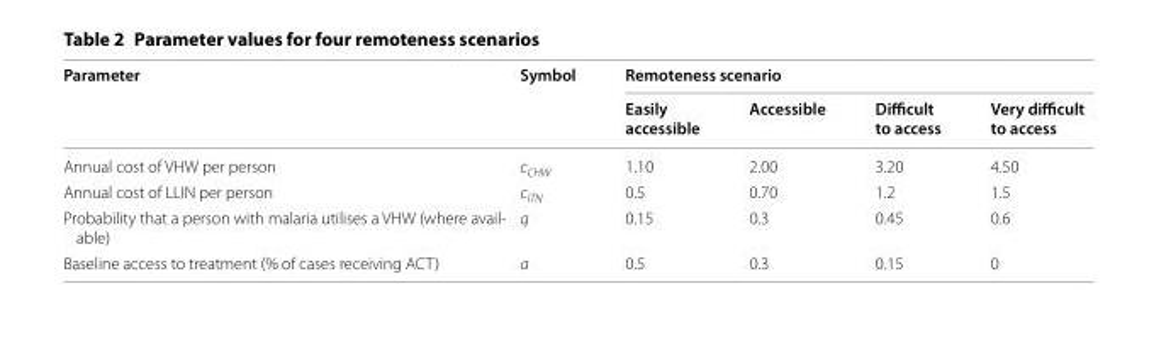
<table><thead><tr><td rowspan="2">Parameter</td><td rowspan="2">Symbol</td><td colspan="4">Remoteness scenario</td></tr><tr><td>Easily accessible</td><td>Accessible</td><td>Difficult to access</td><td>Very difficult to access</td></tr></thead><tbody><tr><td>Annual cost of VHW per person</td><td>c<sub>CHW</sub></td><td>1.10</td><td>2.00</td><td>3.20</td><td>4.50</td></tr><tr><td>Annual cost of LLIN per person</td><td>c<sub>ITN</sub></td><td>0.5</td><td>0.70</td><td>1.2</td><td>1.5</td></tr><tr><td>Probability that a person with malaria utilises a VHW (where avail- able)</td><td>q</td><td>0.15</td><td>0.3</td><td>0.45</td><td>0.6</td></tr><tr><td>Baseline access to treatment (% of cases receiving ACT)</td><td>a</td><td>0.5</td><td>0.3</td><td>0.15</td><td>0</td></tr></tbody></table>